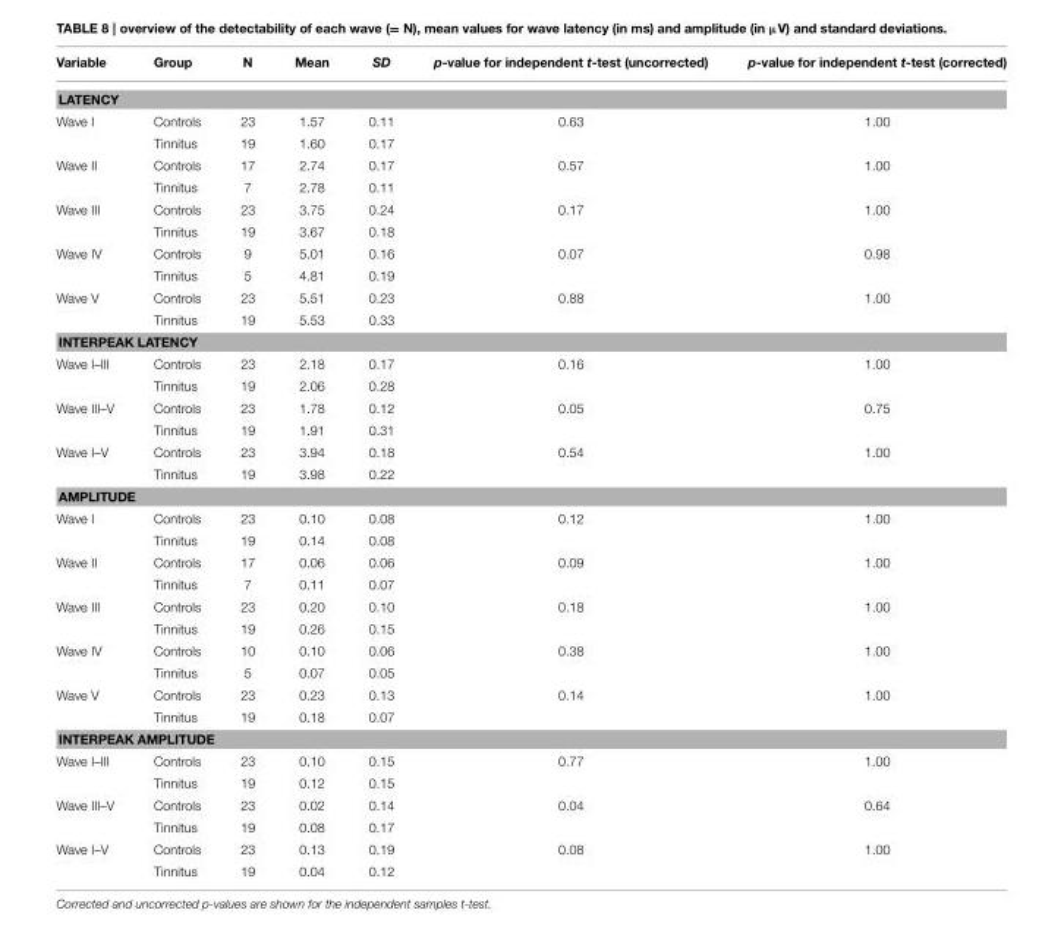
<table><thead><tr><td>Variable</td><td>Group</td><td>N</td><td>Mean</td><td>SD</td><td>p-value for independent t-test (uncorrected)</td><td>p-value for independent t-test (corrected)</td></tr></thead><tbody><tr><td colspan="7">LATENCY</td></tr><tr><td rowspan="2">Wave I</td><td>Controls</td><td>23</td><td>1.57</td><td>0.11</td><td>0.63</td><td>1.00</td></tr><tr><td>Tinnitus</td><td>19</td><td>1.60</td><td>0.17</td><td></td><td></td></tr><tr><td rowspan="2">Wave II</td><td>Controls</td><td>17</td><td>2.74</td><td>0.17</td><td>0.57</td><td>1.00</td></tr><tr><td>Tinnitus</td><td>7</td><td>2.78</td><td>0.11</td><td></td><td></td></tr><tr><td rowspan="2">Wave III</td><td>Controls</td><td>23</td><td>3.75</td><td>0.24</td><td>0.17</td><td>1.00</td></tr><tr><td>Tinnitus</td><td>19</td><td>3.67</td><td>0.18</td><td></td><td></td></tr><tr><td rowspan="2">Wave IV</td><td>Controls</td><td>9</td><td>5.01</td><td>0.16</td><td>0.07</td><td>0.98</td></tr><tr><td>Tinnitus</td><td>5</td><td>4.81</td><td>0.19</td><td></td><td></td></tr><tr><td rowspan="2">Wave V</td><td>Controls</td><td>23</td><td>5.51</td><td>0.23</td><td>0.88</td><td>1.00</td></tr><tr><td>Tinnitus</td><td>19</td><td>5.53</td><td>0.33</td><td></td><td></td></tr><tr><td colspan="7">INTERPEAK LATENCY</td></tr><tr><td rowspan="2">Wave I–III</td><td>Controls</td><td>23</td><td>2.18</td><td>0.17</td><td>0.16</td><td>1.00</td></tr><tr><td>Tinnitus</td><td>19</td><td>2.06</td><td>0.28</td><td></td><td></td></tr><tr><td rowspan="2">Wave III–V</td><td>Controls</td><td>23</td><td>1.78</td><td>0.12</td><td>0.05</td><td>0.75</td></tr><tr><td>Tinnitus</td><td>19</td><td>1.91</td><td>0.31</td><td></td><td></td></tr><tr><td rowspan="2">Wave I–V</td><td>Controls</td><td>23</td><td>3.94</td><td>0.18</td><td>0.54</td><td>1.00</td></tr><tr><td>Tinnitus</td><td>19</td><td>3.98</td><td>0.22</td><td></td><td></td></tr><tr><td colspan="7">AMPLITUDE</td></tr><tr><td rowspan="2">Wave I</td><td>Controls</td><td>23</td><td>0.10</td><td>0.08</td><td>0.12</td><td>1.00</td></tr><tr><td>Tinnitus</td><td>19</td><td>0.14</td><td>0.08</td><td></td><td></td></tr><tr><td rowspan="2">Wave II</td><td>Controls</td><td>17</td><td>0.06</td><td>0.06</td><td>0.09</td><td>1.00</td></tr><tr><td>Tinnitus</td><td>7</td><td>0.11</td><td>0.07</td><td></td><td></td></tr><tr><td rowspan="2">Wave III</td><td>Controls</td><td>23</td><td>0.20</td><td>0.10</td><td>0.18</td><td>1.00</td></tr><tr><td>Tinnitus</td><td>19</td><td>0.26</td><td>0.15</td><td></td><td></td></tr><tr><td rowspan="2">Wave IV</td><td>Controls</td><td>10</td><td>0.10</td><td>0.06</td><td>0.38</td><td>1.00</td></tr><tr><td>Tinnitus</td><td>5</td><td>0.07</td><td>0.05</td><td></td><td></td></tr><tr><td rowspan="2">Wave V</td><td>Controls</td><td>23</td><td>0.23</td><td>0.13</td><td>0.14</td><td>1.00</td></tr><tr><td>Tinnitus</td><td>19</td><td>0.18</td><td>0.07</td><td></td><td></td></tr><tr><td colspan="7">INTERPEAK AMPLITUDE</td></tr><tr><td rowspan="2">Wave I–III</td><td>Controls</td><td>23</td><td>0.10</td><td>0.15</td><td>0.77</td><td>1.00</td></tr><tr><td>Tinnitus</td><td>19</td><td>0.12</td><td>0.15</td><td></td><td></td></tr><tr><td rowspan="2">Wave III–V</td><td>Controls</td><td>23</td><td>0.02</td><td>0.14</td><td>0.04</td><td>0.64</td></tr><tr><td>Tinnitus</td><td>19</td><td>0.08</td><td>0.17</td><td></td><td></td></tr><tr><td rowspan="2">Wave I–V</td><td>Controls</td><td>23</td><td>0.13</td><td>0.19</td><td>0.08</td><td>1.00</td></tr><tr><td>Tinnitus</td><td>19</td><td>0.04</td><td>0.12</td><td></td><td></td></tr></tbody></table>